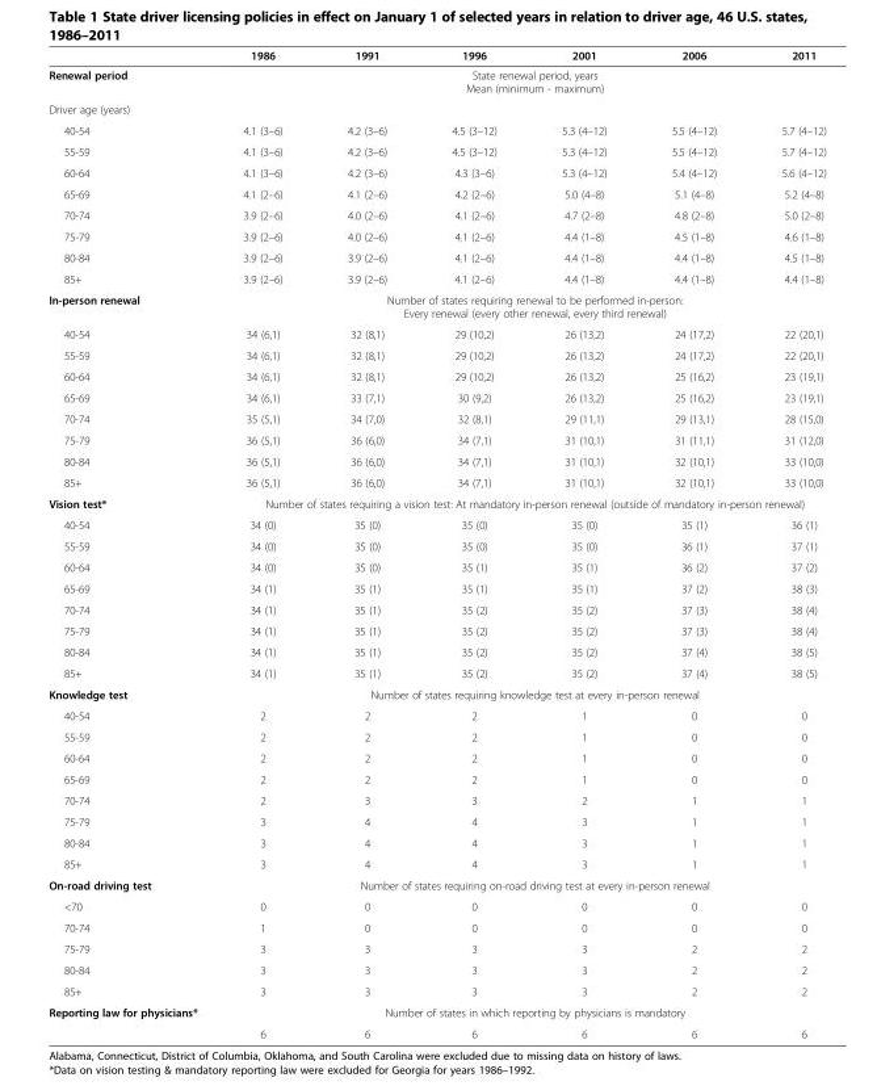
<table><thead><tr><td></td><td>1986</td><td>1991</td><td>1996</td><td>2001</td><td>2006</td><td>2011</td></tr></thead><tbody><tr><td>Renewal period</td><td colspan="6">State renewal period, years Mean (minimum - maximum)</td></tr><tr><td colspan="7">Driver age (years)</td></tr><tr><td>40-54</td><td>4.1 (3–6)</td><td>4.2 (3–6)</td><td>4.5 (3–12)</td><td>5.3 (4–12)</td><td>5.5 (4–12)</td><td>5.7 (4–12)</td></tr><tr><td>55-59</td><td>4.1 (3–6)</td><td>4.2 (3–6)</td><td>4.5 (3–12)</td><td>5.3 (4–12)</td><td>5.5 (4–12)</td><td>5.7 (4–12)</td></tr><tr><td>60-64</td><td>4.1 (3–6)</td><td>4.2 (3–6)</td><td>4.3 (3–6)</td><td>5.3 (4–12)</td><td>5.4 (4–12)</td><td>5.6 (4–12)</td></tr><tr><td>65-69</td><td>4.1 (2–6)</td><td>4.1 (2–6)</td><td>4.2 (2–6)</td><td>5.0 (4–8)</td><td>5.1 (4–8)</td><td>5.2 (4–8)</td></tr><tr><td>70-74</td><td>3.9 (2–6)</td><td>4.0 (2–6)</td><td>4.1 (2–6)</td><td>4.7 (2–8)</td><td>4.8 (2–8)</td><td>5.0 (2–8)</td></tr><tr><td>75-79</td><td>3.9 (2–6)</td><td>4.0 (2–6)</td><td>4.1 (2–6)</td><td>4.4 (1–8)</td><td>4.5 (1–8)</td><td>4.6 (1–8)</td></tr><tr><td>80-84</td><td>3.9 (2–6)</td><td>3.9 (2–6)</td><td>4.1 (2–6)</td><td>4.4 (1–8)</td><td>4.4 (1–8)</td><td>4.5 (1–8)</td></tr><tr><td>85+</td><td>3.9 (2–6)</td><td>3.9 (2–6)</td><td>4.1 (2–6)</td><td>4.4 (1–8)</td><td>4.4 (1–8)</td><td>4.4 (1–8)</td></tr><tr><td>In-person renewal</td><td colspan="6">Number of states requiring renewal to be performed in-person: Every renewal (every other renewal, every third renewal)</td></tr><tr><td>40-54</td><td>34 (6,1)</td><td>32 (8,1)</td><td>29 (10,2)</td><td>26 (13,2)</td><td>24 (17,2)</td><td>22 (20,1)</td></tr><tr><td>55-59</td><td>34 (6,1)</td><td>32 (8,1)</td><td>29 (10,2)</td><td>26 (13,2)</td><td>24 (17,2)</td><td>22 (20,1)</td></tr><tr><td>60-64</td><td>34 (6,1)</td><td>32 (8,1)</td><td>29 (10,2)</td><td>26 (13,2)</td><td>25 (16,2)</td><td>23 (19,1)</td></tr><tr><td>65-69</td><td>34 (6,1)</td><td>33 (7,1)</td><td>30 (9,2)</td><td>26 (13,2)</td><td>25 (16,2)</td><td>23 (19,1)</td></tr><tr><td>70-74</td><td>35 (5,1)</td><td>34 (7,0)</td><td>32 (8,1)</td><td>29 (11,1)</td><td>29 (13,1)</td><td>28 (15,0)</td></tr><tr><td>75-79</td><td>36 (5,1)</td><td>36 (6,0)</td><td>34 (7,1)</td><td>31 (10,1)</td><td>31 (11,1)</td><td>31 (12,0)</td></tr><tr><td>80-84</td><td>36 (5,1)</td><td>36 (6,0)</td><td>34 (7,1)</td><td>31 (10,1)</td><td>32 (10,1)</td><td>33 (10,0)</td></tr><tr><td>85+</td><td>36 (5,1)</td><td>36 (6,0)</td><td>34 (7,1)</td><td>31 (10,1)</td><td>32 (10,1)</td><td>33 (10,0)</td></tr><tr><td>Vision test*</td><td colspan="6">Number of states requiring a vision test: At mandatory in-person renewal (outside of mandatory in-person renewal)</td></tr><tr><td>40-54</td><td>34 (0)</td><td>35 (0)</td><td>35 (0)</td><td>35 (0)</td><td>35 (1)</td><td>36 (1)</td></tr><tr><td>55-59</td><td>34 (0)</td><td>35 (0)</td><td>35 (0)</td><td>35 (0)</td><td>36 (1)</td><td>37 (1)</td></tr><tr><td>60-64</td><td>34 (0)</td><td>35 (0)</td><td>35 (1)</td><td>35 (1)</td><td>36 (2)</td><td>37 (2)</td></tr><tr><td>65-69</td><td>34 (1)</td><td>35 (1)</td><td>35 (1)</td><td>35 (1)</td><td>37 (2)</td><td>38 (3)</td></tr><tr><td>70-74</td><td>34 (1)</td><td>35 (1)</td><td>35 (2)</td><td>35 (2)</td><td>37 (3)</td><td>38 (4)</td></tr><tr><td>75-79</td><td>34 (1)</td><td>35 (1)</td><td>35 (2)</td><td>35 (2)</td><td>37 (3)</td><td>38 (4)</td></tr><tr><td>80-84</td><td>34 (1)</td><td>35 (1)</td><td>35 (2)</td><td>35 (2)</td><td>37 (4)</td><td>38 (5)</td></tr><tr><td>85+</td><td>34 (1)</td><td>35 (1)</td><td>35 (2)</td><td>35 (2)</td><td>37 (4)</td><td>38 (5)</td></tr><tr><td>Knowledge test</td><td colspan="6">Number of states requiring knowledge test at every in-person renewal</td></tr><tr><td>40-54</td><td>2</td><td>2</td><td>2</td><td>1</td><td>0</td><td>0</td></tr><tr><td>55-59</td><td>2</td><td>2</td><td>2</td><td>1</td><td>0</td><td>0</td></tr><tr><td>60-64</td><td>2</td><td>2</td><td>2</td><td>1</td><td>0</td><td>0</td></tr><tr><td>65-69</td><td>2</td><td>2</td><td>2</td><td>1</td><td>0</td><td>0</td></tr><tr><td>70-74</td><td>2</td><td>3</td><td>3</td><td>2</td><td>1</td><td>1</td></tr><tr><td>75-79</td><td>3</td><td>4</td><td>4</td><td>3</td><td>1</td><td>1</td></tr><tr><td>80-84</td><td>3</td><td>4</td><td>4</td><td>3</td><td>1</td><td>1</td></tr><tr><td>85+</td><td>3</td><td>4</td><td>4</td><td>3</td><td>1</td><td>1</td></tr><tr><td>On-road driving test</td><td colspan="6">Number of states requiring on-road driving test at every in-person renewal</td></tr><tr><td>&lt;70</td><td>0</td><td>0</td><td>0</td><td>0</td><td>0</td><td>0</td></tr><tr><td>70-74</td><td>1</td><td>0</td><td>0</td><td>0</td><td>0</td><td>0</td></tr><tr><td>75-79</td><td>3</td><td>3</td><td>3</td><td>3</td><td>2</td><td>2</td></tr><tr><td>80-84</td><td>3</td><td>3</td><td>3</td><td>3</td><td>2</td><td>2</td></tr><tr><td>85+</td><td>3</td><td>3</td><td>3</td><td>3</td><td>2</td><td>2</td></tr><tr><td rowspan="2">Reporting law for physicians*</td><td colspan="6">Number of states in which reporting by physicians is mandatory</td></tr><tr><td>6</td><td>6</td><td>6</td><td>6</td><td>6</td><td>6</td></tr></tbody></table>